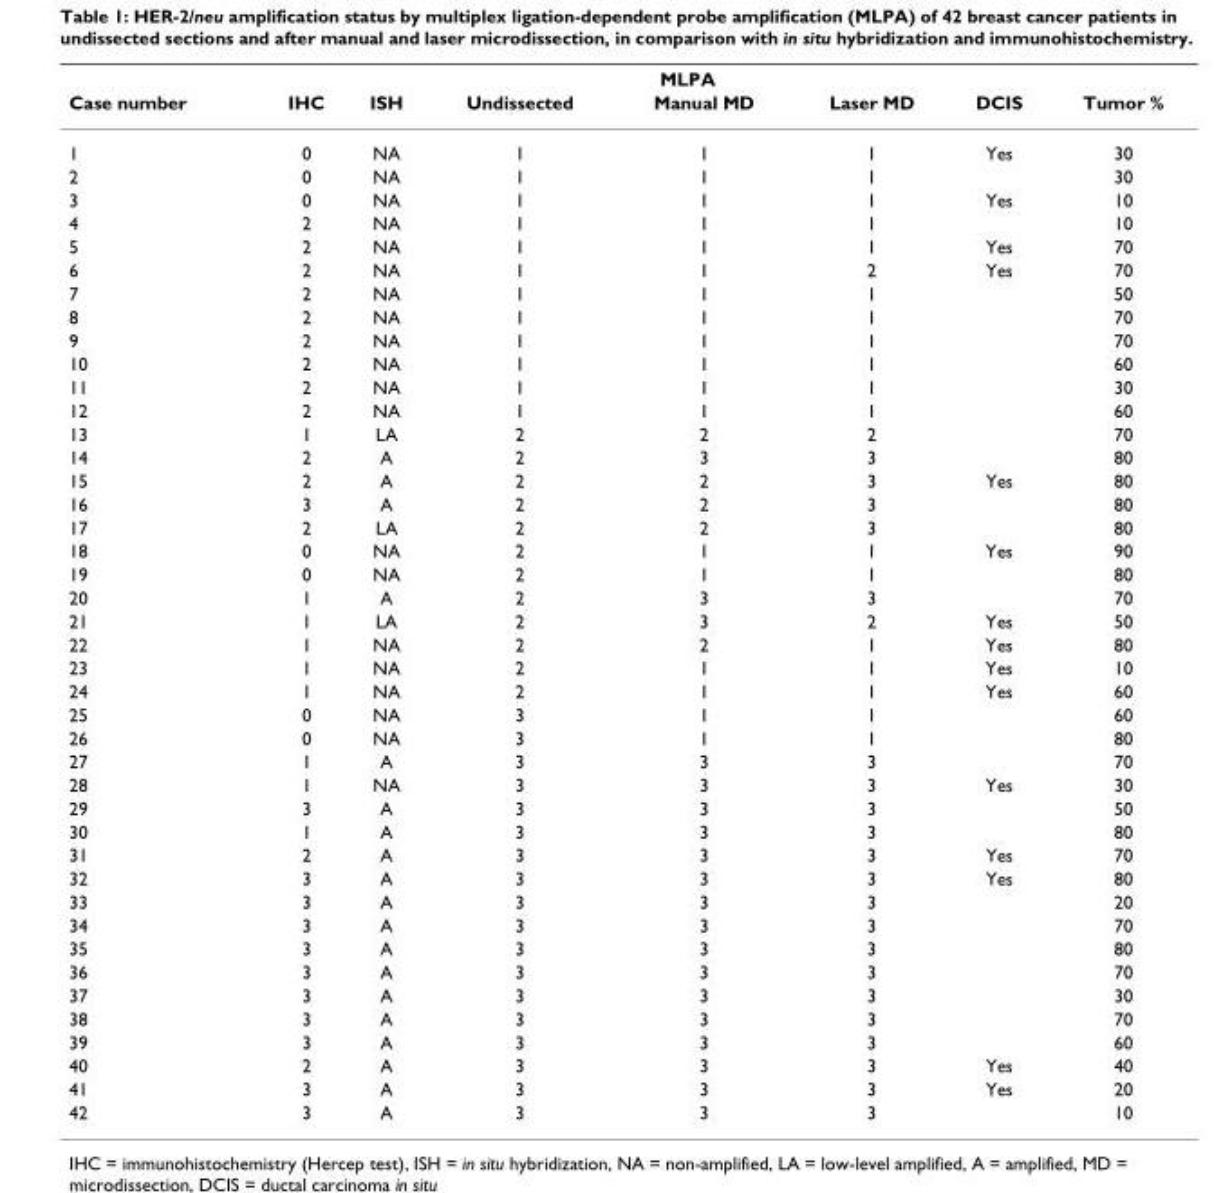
<table><thead><tr><td rowspan="2">Case number</td><td rowspan="2">IHC</td><td rowspan="2">ISH</td><td colspan="3">MLPA</td><td rowspan="2">DCIS</td><td rowspan="2">Tumor %</td></tr><tr><td>Undissected</td><td>Manual MD</td><td>Laser MD</td></tr></thead><tbody><tr><td>1</td><td>0</td><td>NA</td><td>1</td><td>1</td><td>1</td><td>Yes</td><td>30</td></tr><tr><td>2</td><td>0</td><td>NA</td><td>1</td><td>1</td><td>1</td><td></td><td>30</td></tr><tr><td>3</td><td>0</td><td>NA</td><td>1</td><td>1</td><td>1</td><td>Yes</td><td>10</td></tr><tr><td>4</td><td>2</td><td>NA</td><td>1</td><td>1</td><td>1</td><td></td><td>10</td></tr><tr><td>5</td><td>2</td><td>NA</td><td>1</td><td>1</td><td>1</td><td>Yes</td><td>70</td></tr><tr><td>6</td><td>2</td><td>NA</td><td>1</td><td>1</td><td>2</td><td>Yes</td><td>70</td></tr><tr><td>7</td><td>2</td><td>NA</td><td>1</td><td>1</td><td>1</td><td></td><td>50</td></tr><tr><td>8</td><td>2</td><td>NA</td><td>1</td><td>1</td><td>1</td><td></td><td>70</td></tr><tr><td>9</td><td>2</td><td>NA</td><td>1</td><td>1</td><td>1</td><td></td><td>70</td></tr><tr><td>10</td><td>2</td><td>NA</td><td>1</td><td>1</td><td>1</td><td></td><td>60</td></tr><tr><td>11</td><td>2</td><td>NA</td><td>1</td><td>1</td><td>1</td><td></td><td>30</td></tr><tr><td>12</td><td>2</td><td>NA</td><td>1</td><td>1</td><td>1</td><td></td><td>60</td></tr><tr><td>13</td><td>1</td><td>LA</td><td>2</td><td>2</td><td>2</td><td></td><td>70</td></tr><tr><td>14</td><td>2</td><td>A</td><td>2</td><td>3</td><td>3</td><td></td><td>80</td></tr><tr><td>15</td><td>2</td><td>A</td><td>2</td><td>2</td><td>3</td><td>Yes</td><td>80</td></tr><tr><td>16</td><td>3</td><td>A</td><td>2</td><td>2</td><td>3</td><td></td><td>80</td></tr><tr><td>17</td><td>2</td><td>LA</td><td>2</td><td>2</td><td>3</td><td></td><td>80</td></tr><tr><td>18</td><td>0</td><td>NA</td><td>2</td><td>1</td><td>1</td><td>Yes</td><td>90</td></tr><tr><td>19</td><td>0</td><td>NA</td><td>2</td><td>1</td><td>1</td><td></td><td>80</td></tr><tr><td>20</td><td>1</td><td>A</td><td>2</td><td>3</td><td>3</td><td></td><td>70</td></tr><tr><td>21</td><td>1</td><td>LA</td><td>2</td><td>3</td><td>2</td><td>Yes</td><td>50</td></tr><tr><td>22</td><td>1</td><td>NA</td><td>2</td><td>2</td><td>1</td><td>Yes</td><td>80</td></tr><tr><td>23</td><td>1</td><td>NA</td><td>2</td><td>1</td><td>1</td><td>Yes</td><td>10</td></tr><tr><td>24</td><td>1</td><td>NA</td><td>2</td><td>1</td><td>1</td><td>Yes</td><td>60</td></tr><tr><td>25</td><td>0</td><td>NA</td><td>3</td><td>1</td><td>1</td><td></td><td>60</td></tr><tr><td>26</td><td>0</td><td>NA</td><td>3</td><td>1</td><td>1</td><td></td><td>80</td></tr><tr><td>27</td><td>1</td><td>A</td><td>3</td><td>3</td><td>3</td><td></td><td>70</td></tr><tr><td>28</td><td>1</td><td>NA</td><td>3</td><td>3</td><td>3</td><td>Yes</td><td>30</td></tr><tr><td>29</td><td>3</td><td>A</td><td>3</td><td>3</td><td>3</td><td></td><td>50</td></tr><tr><td>30</td><td>1</td><td>A</td><td>3</td><td>3</td><td>3</td><td></td><td>80</td></tr><tr><td>31</td><td>2</td><td>A</td><td>3</td><td>3</td><td>3</td><td>Yes</td><td>70</td></tr><tr><td>32</td><td>3</td><td>A</td><td>3</td><td>3</td><td>3</td><td>Yes</td><td>80</td></tr><tr><td>33</td><td>3</td><td>A</td><td>3</td><td>3</td><td>3</td><td></td><td>20</td></tr><tr><td>34</td><td>3</td><td>A</td><td>3</td><td>3</td><td>3</td><td></td><td>70</td></tr><tr><td>35</td><td>3</td><td>A</td><td>3</td><td>3</td><td>3</td><td></td><td>80</td></tr><tr><td>36</td><td>3</td><td>A</td><td>3</td><td>3</td><td>3</td><td></td><td>70</td></tr><tr><td>37</td><td>3</td><td>A</td><td>3</td><td>3</td><td>3</td><td></td><td>30</td></tr><tr><td>38</td><td>3</td><td>A</td><td>3</td><td>3</td><td>3</td><td></td><td>70</td></tr><tr><td>39</td><td>3</td><td>A</td><td>3</td><td>3</td><td>3</td><td></td><td>60</td></tr><tr><td>40</td><td>2</td><td>A</td><td>3</td><td>3</td><td>3</td><td>Yes</td><td>40</td></tr><tr><td>41</td><td>3</td><td>A</td><td>3</td><td>3</td><td>3</td><td>Yes</td><td>20</td></tr><tr><td>42</td><td>3</td><td>A</td><td>3</td><td>3</td><td>3</td><td></td><td>10</td></tr></tbody></table>